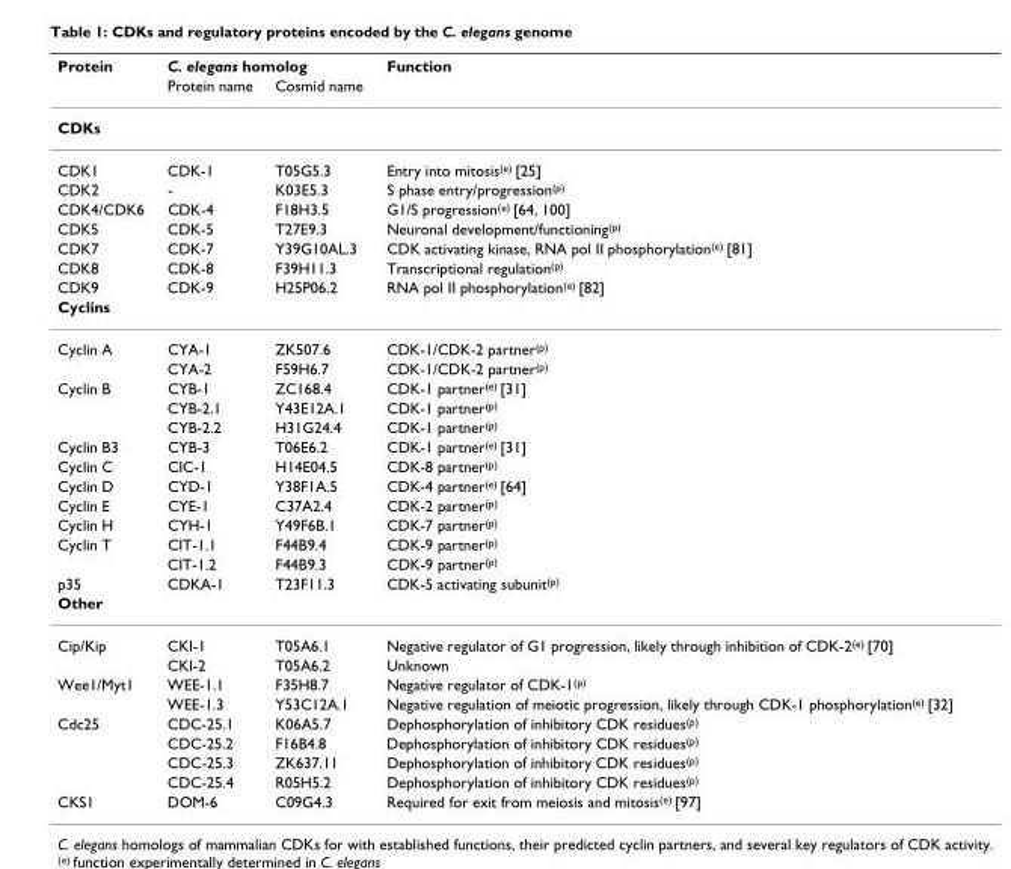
<table><thead><tr><td rowspan="2">Protein</td><td colspan="2">C. elegans homolog</td><td rowspan="2">Function</td></tr><tr><td>Protein name</td><td>Cosmid name</td></tr></thead><tbody><tr><td colspan="4">CDKs</td></tr><tr><td>CDK1</td><td>CDK-1</td><td>T05G5.3</td><td>Entry into mitosis<sup>(e)</sup> [25]</td></tr><tr><td>CDK2</td><td>-</td><td>K03E5.3</td><td>S phase entry/progression<sup>(p)</sup></td></tr><tr><td>CDK4/CDK6</td><td>CDK-4</td><td>F18H3.5</td><td>G1/S progression<sup>(e)</sup> [64, 100]</td></tr><tr><td>CDK5</td><td>CDK-5</td><td>T27E9.3</td><td>Neuronal development/functioning<sup>(p)</sup></td></tr><tr><td>CDK7</td><td>CDK-7</td><td>Y39G10AL.3</td><td>CDK activating kinase, RNA pol II phosphorylation<sup>(e)</sup> [81]</td></tr><tr><td>CDK8</td><td>CDK-8</td><td>F39H11.3</td><td>Transcriptional regulation<sup>(p)</sup></td></tr><tr><td>CDK9</td><td>CDK-9</td><td>H25P06.2</td><td>RNA pol II phosphorylation<sup>(e)</sup> [82]</td></tr><tr><td colspan="4">Cyclins</td></tr><tr><td rowspan="2">Cyclin A</td><td>CYA-1</td><td>ZK507.6</td><td>CDK-1/CDK-2 partner<sup>(p)</sup></td></tr><tr><td>CYA-2</td><td>F59H6.7</td><td>CDK-1/CDK-2 partner<sup>(p)</sup></td></tr><tr><td rowspan="3">Cyclin B</td><td>CYB-1</td><td>ZC168.4</td><td>CDK-1 partner<sup>(e)</sup> [31]</td></tr><tr><td>CYB-2.1</td><td>Y43E12A.1</td><td>CDK-1 partner<sup>(p)</sup></td></tr><tr><td>CYB-2.2</td><td>H31G24.4</td><td>CDK-1 partner<sup>(p)</sup></td></tr><tr><td>Cyclin B3</td><td>CYB-3</td><td>T06E6.2</td><td>CDK-1 partner<sup>(e)</sup> [31]</td></tr><tr><td>Cyclin C</td><td>CIC-1</td><td>H14E04.5</td><td>CDK-8 partner<sup>(p)</sup></td></tr><tr><td>Cyclin D</td><td>CYD-1</td><td>Y38F1A.5</td><td>CDK-4 partner<sup>(e)</sup> [64]</td></tr><tr><td>Cyclin E</td><td>CYE-1</td><td>C37A2.4</td><td>CDK-2 partner<sup>(p)</sup></td></tr><tr><td>Cyclin H</td><td>CYH-1</td><td>Y49F6B.1</td><td>CDK-7 partner<sup>(p)</sup></td></tr><tr><td rowspan="2">Cyclin T</td><td>CIT-1.1</td><td>F44B9.4</td><td>CDK-9 partner<sup>(p)</sup></td></tr><tr><td>CIT-1.2</td><td>F44B9.3</td><td>CDK-9 partner<sup>(p)</sup></td></tr><tr><td>p35</td><td>CDKA-1</td><td>T23F11.3</td><td>CDK-5 activating subunit<sup>(p)</sup></td></tr><tr><td colspan="4">Other</td></tr><tr><td rowspan="2">Cip/Kip</td><td>CKI-1</td><td>T05A6.1</td><td>Negative regulator of G1 progression, likely through inhibition of CDK-2<sup>(e)</sup> [70]</td></tr><tr><td>CKI-2</td><td>T05A6.2</td><td>Unknown</td></tr><tr><td rowspan="2">Wee1/Myt1</td><td>WEE-1.1</td><td>F35H8.7</td><td>Negative regulator of CDK-1<sup>(p)</sup></td></tr><tr><td>WEE-1.3</td><td>Y53C12A.1</td><td>Negative regulation of meiotic progression, likely through CDK-1 phosphorylation<sup>(e)</sup> [32]</td></tr><tr><td rowspan="4">Cdc25</td><td>CDC-25.1</td><td>K06A5.7</td><td>Dephosphorylation of inhibitory CDK residues<sup>(p)</sup></td></tr><tr><td>CDC-25.2</td><td>F16B4.8</td><td>Dephosphorylation of inhibitory CDK residues<sup>(p)</sup></td></tr><tr><td>CDC-25.3</td><td>ZK637.11</td><td>Dephosphorylation of inhibitory CDK residues<sup>(p)</sup></td></tr><tr><td>CDC-25.4</td><td>R05H5.2</td><td>Dephosphorylation of inhibitory CDK residues<sup>(p)</sup></td></tr><tr><td>CKS1</td><td>DOM-6</td><td>C09G4.3</td><td>Required for exit from meiosis and mitosis<sup>(e)</sup> [97]</td></tr></tbody></table>